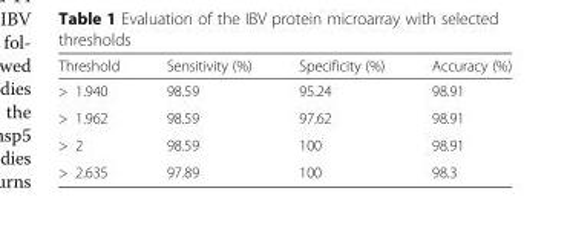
<table><thead><tr><td>Threshold</td><td>Sensitivity (%)</td><td>Specificity (%)</td><td>Accuracy (%)</td></tr></thead><tbody><tr><td>&gt; 1.940</td><td>98.59</td><td>95.24</td><td>98.91</td></tr><tr><td>&gt; 1.962</td><td>98.59</td><td>97.62</td><td>98.91</td></tr><tr><td>&gt; 2</td><td>98.59</td><td>100</td><td>98.91</td></tr><tr><td>&gt; 2.635</td><td>97.89</td><td>100</td><td>98.3</td></tr></tbody></table>